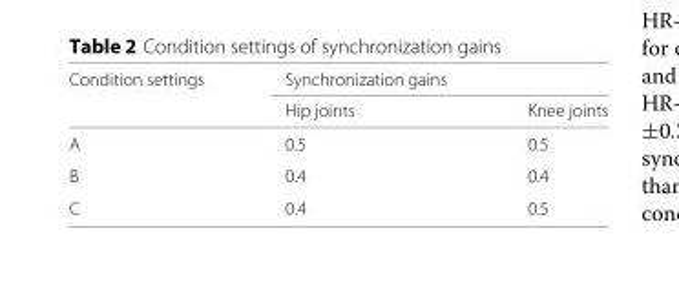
<table><thead><tr><td rowspan="2">Condition settings</td><td rowspan="2">Synchronization gains Hip joints</td><td rowspan="2">Knee joints</td></tr><tr></tr></thead><tbody><tr><td>A</td><td>0.5</td><td>0.5</td></tr><tr><td>B</td><td>0.4</td><td>0.4</td></tr><tr><td>C</td><td>0.4</td><td>0.5</td></tr></tbody></table>